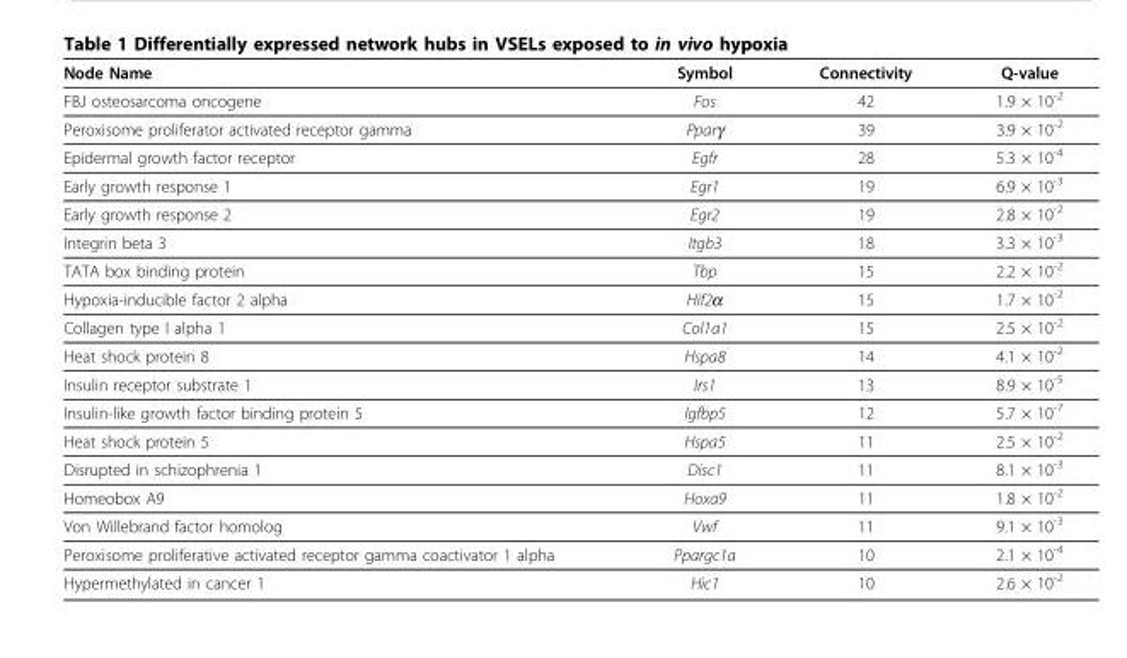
<table><thead><tr><td>Node Name</td><td>Symbol</td><td>Connectivity</td><td>Q-value</td></tr></thead><tbody><tr><td>FBJ osteosarcoma oncogene</td><td>Fos</td><td>42</td><td>1.9 × 10<sup>-2</sup></td></tr><tr><td>Peroxisome proliferator activated receptor gamma</td><td>Pparγ</td><td>39</td><td>3.9 × 10<sup>-2</sup></td></tr><tr><td>Epidermal growth factor receptor</td><td>Egfr</td><td>28</td><td>5.3 × 10<sup>-4</sup></td></tr><tr><td>Early growth response 1</td><td>Egr1</td><td>19</td><td>6.9 × 10<sup>-3</sup></td></tr><tr><td>Early growth response 2</td><td>Egr2</td><td>19</td><td>2.8 × 10<sup>-2</sup></td></tr><tr><td>Integrin beta 3</td><td>Itgb3</td><td>18</td><td>3.3 × 10<sup>-3</sup></td></tr><tr><td>TATA box binding protein</td><td>Tbp</td><td>15</td><td>2.2 × 10<sup>-2</sup></td></tr><tr><td>Hypoxia-inducible factor 2 alpha</td><td>Hif2α</td><td>15</td><td>1.7 × 10<sup>-2</sup></td></tr><tr><td>Collagen type I alpha 1</td><td>Col1a1</td><td>15</td><td>2.5 × 10<sup>-2</sup></td></tr><tr><td>Heat shock protein 8</td><td>Hspa8</td><td>14</td><td>4.1 × 10<sup>-2</sup></td></tr><tr><td>Insulin receptor substrate 1</td><td>Irs1</td><td>13</td><td>8.9 × 10<sup>-5</sup></td></tr><tr><td>Insulin-like growth factor binding protein 5</td><td>Igfbp5</td><td>12</td><td>5.7 × 10<sup>-7</sup></td></tr><tr><td>Heat shock protein 5</td><td>Hspa5</td><td>11</td><td>2.5 × 10<sup>-2</sup></td></tr><tr><td>Disrupted in schizophrenia 1</td><td>Disc1</td><td>11</td><td>8.1 × 10<sup>-3</sup></td></tr><tr><td>Homeobox A9</td><td>Hoxa9</td><td>11</td><td>1.8 × 10<sup>-2</sup></td></tr><tr><td>Von Willebrand factor homolog</td><td>Vwf</td><td>11</td><td>9.1 × 10<sup>-3</sup></td></tr><tr><td>Peroxisome proliferative activated receptor gamma coactivator 1 alpha</td><td>Ppargc1a</td><td>10</td><td>2.1 × 10<sup>-4</sup></td></tr><tr><td>Hypermethylated in cancer 1</td><td>Hic1</td><td>10</td><td>2.6 × 10<sup>-2</sup></td></tr></tbody></table>